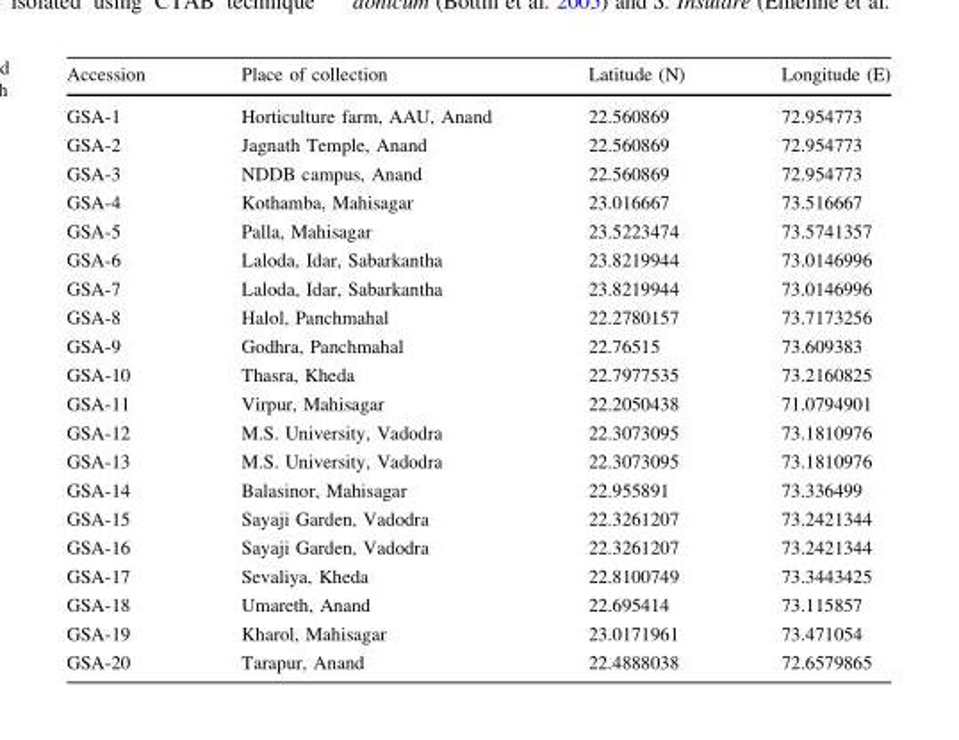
<table><thead><tr><td>Accession</td><td>Place of collection</td><td>Latitude (N)</td><td>Longitude (E)</td></tr></thead><tbody><tr><td>GSA-1</td><td>Horticulture farm, AAU, Anand</td><td>22.560869</td><td>72.954773</td></tr><tr><td>GSA-2</td><td>Jagnath Temple, Anand</td><td>22.560869</td><td>72.954773</td></tr><tr><td>GSA-3</td><td>NDDB campus, Anand</td><td>22.560869</td><td>72.954773</td></tr><tr><td>GSA-4</td><td>Kothamba, Mahisagar</td><td>23.016667</td><td>73.516667</td></tr><tr><td>GSA-5</td><td>Palla, Mahisagar</td><td>23.5223474</td><td>73.5741357</td></tr><tr><td>GSA-6</td><td>Laloda, Idar, Sabarkantha</td><td>23.8219944</td><td>73.0146996</td></tr><tr><td>GSA-7</td><td>Laloda, Idar, Sabarkantha</td><td>23.8219944</td><td>73.0146996</td></tr><tr><td>GSA-8</td><td>Halol, Panchmahal</td><td>22.2780157</td><td>73.7173256</td></tr><tr><td>GSA-9</td><td>Godhra, Panchmahal</td><td>22.76515</td><td>73.609383</td></tr><tr><td>GSA-10</td><td>Thasra, Kheda</td><td>22.7977535</td><td>73.2160825</td></tr><tr><td>GSA-11</td><td>Virpur, Mahisagar</td><td>22.2050438</td><td>71.0794901</td></tr><tr><td>GSA-12</td><td>M.S. University, Vadodra</td><td>22.3073095</td><td>73.1810976</td></tr><tr><td>GSA-13</td><td>M.S. University, Vadodra</td><td>22.3073095</td><td>73.1810976</td></tr><tr><td>GSA-14</td><td>Balasinor, Mahisagar</td><td>22.955891</td><td>73.336499</td></tr><tr><td>GSA-15</td><td>Sayaji Garden, Vadodra</td><td>22.3261207</td><td>73.2421344</td></tr><tr><td>GSA-16</td><td>Sayaji Garden, Vadodra</td><td>22.3261207</td><td>73.2421344</td></tr><tr><td>GSA-17</td><td>Sevaliya, Kheda</td><td>22.8100749</td><td>73.3443425</td></tr><tr><td>GSA-18</td><td>Umareth, Anand</td><td>22.695414</td><td>73.115857</td></tr><tr><td>GSA-19</td><td>Kharol, Mahisagar</td><td>23.0171961</td><td>73.471054</td></tr><tr><td>GSA-20</td><td>Tarapur, Anand</td><td>22.4888038</td><td>72.6579865</td></tr></tbody></table>